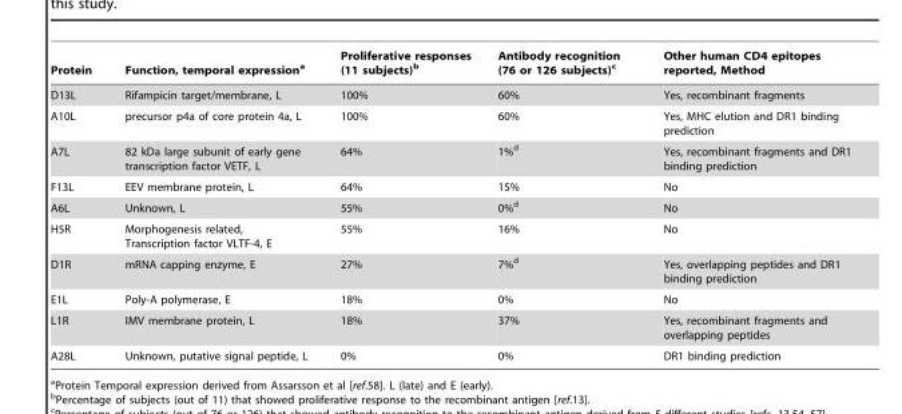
<table><thead><tr><td>Protein</td><td>Function, temporal expression<sup>a</sup></td><td>Proliferative responses (11 subjects)<sup>b</sup></td><td>Antibody recognition (76 or 126 subjects)<sup>c</sup></td><td>Other human CD4 epitopes reported, Method</td></tr></thead><tbody><tr><td>D13L</td><td>Rifampicin target/membrane, L</td><td>100%</td><td>60%</td><td>Yes, recombinant fragments</td></tr><tr><td>A10L</td><td>precursor p4a of core protein 4a, L</td><td>100%</td><td>60%</td><td>Yes, MHC elution and DR1 binding prediction</td></tr><tr><td>A7L</td><td>82 kDa large subunit of early gene transcription factor VETF, L</td><td>64%</td><td>1%<sup>d</sup></td><td>Yes, recombinant fragments and DR1 binding prediction</td></tr><tr><td>F13L</td><td>EEV membrane protein, L</td><td>64%</td><td>15%</td><td>No</td></tr><tr><td>A6L</td><td>Unknown, L</td><td>55%</td><td>0%<sup>d</sup></td><td>No</td></tr><tr><td>H5R</td><td>Morphogenesis related, Transcription factor VLTF-4, E</td><td>55%</td><td>16%</td><td>No</td></tr><tr><td>D1R</td><td>mRNA capping enzyme, E</td><td>27%</td><td>7%<sup>d</sup></td><td>Yes, overlapping peptides and DR1 binding prediction</td></tr><tr><td>E1L</td><td>Poly-A polymerase, E</td><td>18%</td><td>0%</td><td>No</td></tr><tr><td>L1R</td><td>IMV membrane protein, L</td><td>18%</td><td>37%</td><td>Yes, recombinant fragments and overlapping peptides</td></tr><tr><td>A28L</td><td>Unknown, putative signal peptide, L</td><td>0%</td><td>0%</td><td>DR1 binding prediction</td></tr></tbody></table>